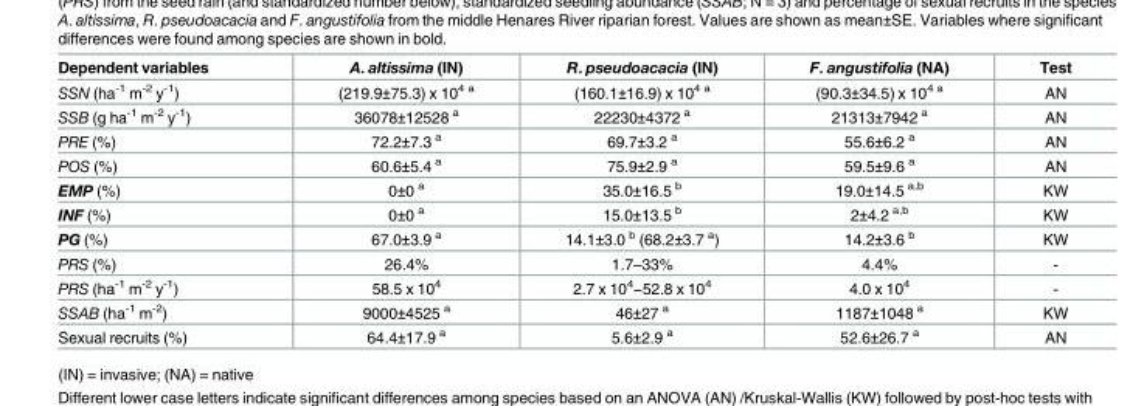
<table><thead><tr><td>Dependent variables</td><td>A. altissima (IN)</td><td>R. pseudoacacia (IN)</td><td>F. angustifolia (NA)</td><td>Test</td></tr></thead><tbody><tr><td>SSN (ha<sup>-1</sup> m<sup>-2</sup> y<sup>-1</sup>)</td><td>(219.9±75.3) x 10<sup>4 a</sup></td><td>(160.1±16.9) x 10<sup>4 a</sup></td><td>(90.3±34.5) x 10<sup>4 a</sup></td><td>AN</td></tr><tr><td>SSB (g ha<sup>-1</sup> m<sup>-2</sup> y<sup>-1</sup>)</td><td>36078±12528 <sup>a</sup></td><td>22230±4372 <sup>a</sup></td><td>21313±7942 <sup>a</sup></td><td>AN</td></tr><tr><td>PRE (%)</td><td>72.2±7.3 <sup>a</sup></td><td>69.7±3.2 <sup>a</sup></td><td>55.6±6.2 <sup>a</sup></td><td>AN</td></tr><tr><td>POS (%)</td><td>60.6±5.4 <sup>a</sup></td><td>75.9±2.9 <sup>a</sup></td><td>59.5±9.6 <sup>a</sup></td><td>AN</td></tr><tr><td>EMP (%)</td><td>0±0 <sup>a</sup></td><td>35.0±16.5 <sup>b</sup></td><td>19.0±14.5 <sup>a,b</sup></td><td>KW</td></tr><tr><td>INF (%)</td><td>0±0 <sup>a</sup></td><td>15.0±13.5 <sup>b</sup></td><td>2±4.2 <sup>a,b</sup></td><td>KW</td></tr><tr><td>PG (%)</td><td>67.0±3.9 <sup>a</sup></td><td>14.1±3.0 <sup>b</sup> (68.2±3.7 <sup>a</sup>)</td><td>14.2±3.6 <sup>b</sup></td><td>KW</td></tr><tr><td>PRS (%)</td><td>26.4%</td><td>1.7–33%</td><td>4.4%</td><td>-</td></tr><tr><td>PRS (ha<sup>-1</sup> m<sup>-2</sup> y<sup>-1</sup>)</td><td>58.5 x 10<sup>4</sup></td><td>2.7 x 10<sup>4</sup>−52.8 x 10<sup>4</sup></td><td>4.0 x 10<sup>4</sup></td><td>-</td></tr><tr><td>SSAB (ha<sup>-1</sup> m<sup>-2</sup>)</td><td>9000±4525 <sup>a</sup></td><td>46±27 <sup>a</sup></td><td>1187±1048 <sup>a</sup></td><td>KW</td></tr><tr><td>Sexual recruits (%)</td><td>64.4±17.9 <sup>a</sup></td><td>5.6±2.9 <sup>a</sup></td><td>52.6±26.7 <sup>a</sup></td><td>AN</td></tr></tbody></table>